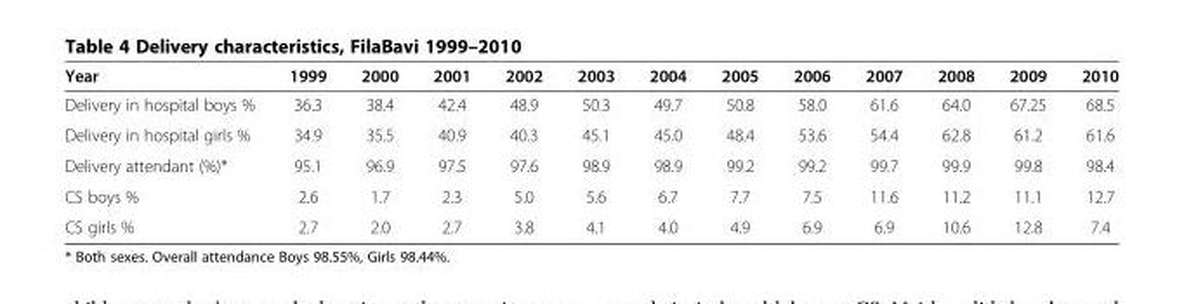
<table><thead><tr><td>Year</td><td>1999</td><td>2000</td><td>2001</td><td>2002</td><td>2003</td><td>2004</td><td>2005</td><td>2006</td><td>2007</td><td>2008</td><td>2009</td><td>2010</td></tr></thead><tbody><tr><td>Delivery in hospital boys %</td><td>36.3</td><td>38.4</td><td>42.4</td><td>48.9</td><td>50.3</td><td>49.7</td><td>50.8</td><td>58.0</td><td>61.6</td><td>64.0</td><td>67.25</td><td>68.5</td></tr><tr><td>Delivery in hospital girls %</td><td>34.9</td><td>35.5</td><td>40.9</td><td>40.3</td><td>45.1</td><td>45.0</td><td>48.4</td><td>53.6</td><td>54.4</td><td>62.8</td><td>61.2</td><td>61.6</td></tr><tr><td>Delivery attendant (%)*</td><td>95.1</td><td>96.9</td><td>97.5</td><td>97.6</td><td>98.9</td><td>98.9</td><td>99.2</td><td>99.2</td><td>99.7</td><td>99.9</td><td>99.8</td><td>98.4</td></tr><tr><td>CS boys %</td><td>2.6</td><td>1.7</td><td>2.3</td><td>5.0</td><td>5.6</td><td>6.7</td><td>7.7</td><td>7.5</td><td>11.6</td><td>11.2</td><td>11.1</td><td>12.7</td></tr><tr><td>CS girls %</td><td>2.7</td><td>2.0</td><td>2.7</td><td>3.8</td><td>4.1</td><td>4.0</td><td>4.9</td><td>6.9</td><td>6.9</td><td>10.6</td><td>12.8</td><td>7.4</td></tr></tbody></table>